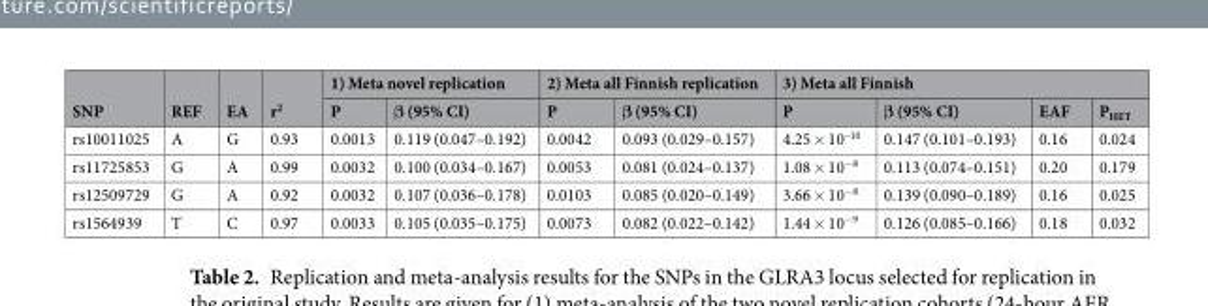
<table><thead><tr><td rowspan="2">SNP</td><td rowspan="2">REF</td><td rowspan="2">EA</td><td rowspan="2">r<sup>2</sup></td><td colspan="2">1) Meta novel replication</td><td colspan="2">2) Meta all Finnish replication</td><td colspan="4">3) Meta all Finnish</td></tr><tr><td>P</td><td>β (95% CI)</td><td>P</td><td>β (95% CI)</td><td>P</td><td>β (95% CI)</td><td>EAF</td><td>P<sub>HET</sub></td></tr></thead><tbody><tr><td>rs10011025</td><td>A</td><td>G</td><td>0.93</td><td>0.0013</td><td>0.119 (0.047–0.192)</td><td>0.0042</td><td>0.093 (0.029–0.157)</td><td>4.25 × 10<sup>–10</sup></td><td>0.147 (0.101–0.193)</td><td>0.16</td><td>0.024</td></tr><tr><td>rs11725853</td><td>G</td><td>A</td><td>0.99</td><td>0.0032</td><td>0.100 (0.034–0.167)</td><td>0.0053</td><td>0.081 (0.024–0.137)</td><td>1.08 × 10<sup>−8</sup></td><td>0.113 (0.074–0.151)</td><td>0.20</td><td>0.179</td></tr><tr><td>rs12509729</td><td>G</td><td>A</td><td>0.92</td><td>0.0032</td><td>0.107 (0.036–0.178)</td><td>0.0103</td><td>0.085 (0.020–0.149)</td><td>3.66 × 10<sup>−8</sup></td><td>0.139 (0.090–0.189)</td><td>0.16</td><td>0.025</td></tr><tr><td>rs1564939</td><td>T</td><td>C</td><td>0.97</td><td>0.0033</td><td>0.105 (0.035–0.175)</td><td>0.0073</td><td>0.082 (0.022–0.142)</td><td>1.44 × 10<sup>−9</sup></td><td>0.126 (0.085–0.166)</td><td>0.18</td><td>0.032</td></tr></tbody></table>